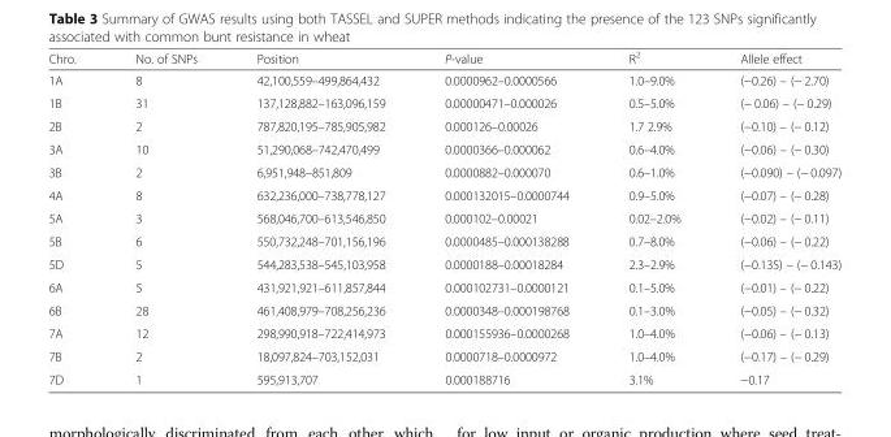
<table><thead><tr><td>Chro.</td><td>No. of SNPs</td><td>Position</td><td>P-value</td><td>R<sup>2</sup></td><td>Allele effect</td></tr></thead><tbody><tr><td>1A</td><td>8</td><td>42,100,559–499,864,432</td><td>0.0000962–0.0000566</td><td>1.0–9.0%</td><td>(−0.26) – (− 2.70)</td></tr><tr><td>1B</td><td>31</td><td>137,128,882–163,096,159</td><td>0.00000471–0.000026</td><td>0.5–5.0%</td><td>(− 0.06) – (− 0.29)</td></tr><tr><td>2B</td><td>2</td><td>787,820,195–785,905,982</td><td>0.000126–0.00026</td><td>1.7 2.9%</td><td>(−0.10) – (− 0.12)</td></tr><tr><td>3A</td><td>10</td><td>51,290,068–742,470,499</td><td>0.0000366–0.000062</td><td>0.6–4.0%</td><td>(−0.06) – (− 0.30)</td></tr><tr><td>3B</td><td>2</td><td>6,951,948–851,809</td><td>0.0000882–0.000070</td><td>0.6–1.0%</td><td>(−0.090) – (− 0.097)</td></tr><tr><td>4A</td><td>8</td><td>632,236,000–738,778,127</td><td>0.000132015–0.0000744</td><td>0.9–5.0%</td><td>(−0.07) – (− 0.28)</td></tr><tr><td>5A</td><td>3</td><td>568,046,700–613,546,850</td><td>0.000102–0.00021</td><td>0.02–2.0%</td><td>(−0.02) – (− 0.11)</td></tr><tr><td>5B</td><td>6</td><td>550,732,248–701,156,196</td><td>0.0000485–0.000138288</td><td>0.7–8.0%</td><td>(−0.06) – (− 0.22)</td></tr><tr><td>5D</td><td>5</td><td>544,283,538–545,103,958</td><td>0.0000188–0.00018284</td><td>2.3–2.9%</td><td>(−0.135) – (− 0.143)</td></tr><tr><td>6A</td><td>5</td><td>431,921,921–611,857,844</td><td>0.000102731–0.0000121</td><td>0.1–5.0%</td><td>(−0.01) – (− 0.22)</td></tr><tr><td>6B</td><td>28</td><td>461,408,979–708,256,236</td><td>0.0000348–0.000198768</td><td>0.1–3.0%</td><td>(−0.05) – (− 0.32)</td></tr><tr><td>7A</td><td>12</td><td>298,990,918–722,414,973</td><td>0.000155936–0.0000268</td><td>1.0–4.0%</td><td>(−0.06) – (− 0.13)</td></tr><tr><td>7B</td><td>2</td><td>18,097,824–703,152,031</td><td>0.0000718–0.0000972</td><td>1.0–4.0%</td><td>(−0.17) – (− 0.29)</td></tr><tr><td>7D</td><td>1</td><td>595,913,707</td><td>0.000188716</td><td>3.1%</td><td>−0.17</td></tr></tbody></table>